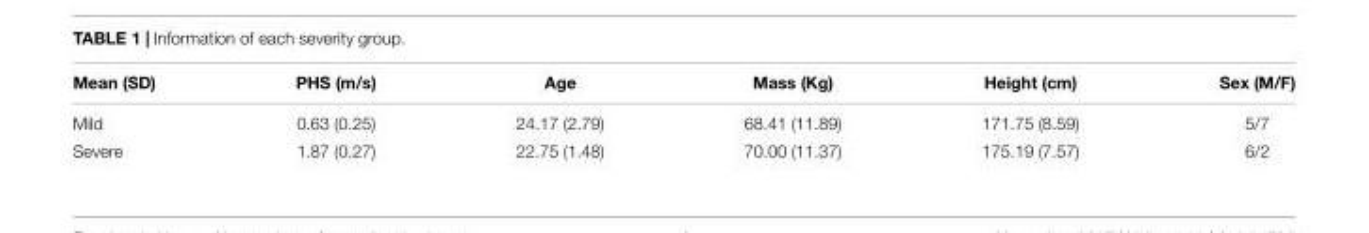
<table><thead><tr><td>Mean (SD)</td><td>PHS (m/s)</td><td>Age</td><td>Mass (Kg)</td><td>Height (cm)</td><td>Sex (M/F)</td></tr></thead><tbody><tr><td>Mild</td><td>0.63 (0.25)</td><td>24.17 (2.79)</td><td>68.41 (11.89)</td><td>171.75 (8.59)</td><td>5/7</td></tr><tr><td>Severe</td><td>1.87 (0.27)</td><td>22.75 (1.48)</td><td>70.00 (11.37)</td><td>175.19 (7.57)</td><td>6/2</td></tr></tbody></table>